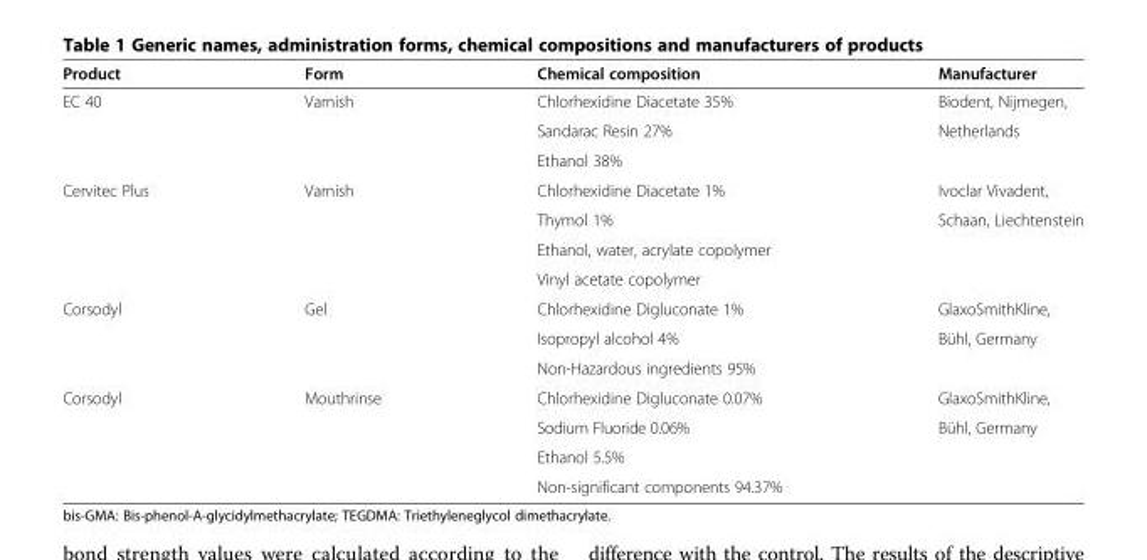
<table><thead><tr><td>Product</td><td>Form</td><td>Chemical composition</td><td>Manufacturer</td></tr></thead><tbody><tr><td rowspan="3">EC 40</td><td>Varnish</td><td>Chlorhexidine Diacetate 35%</td><td>Biodent, Nijmegen,</td></tr><tr><td></td><td>Sandarac Resin 27%</td><td>Netherlands</td></tr><tr><td></td><td>Ethanol 38%</td><td></td></tr><tr><td rowspan="4">Cervitec Plus</td><td>Varnish</td><td>Chlorhexidine Diacetate 1%</td><td>Ivoclar Vivadent,</td></tr><tr><td></td><td>Thymol 1%</td><td>Schaan, Liechtenstein</td></tr><tr><td></td><td>Ethanol, water, acrylate copolymer</td><td></td></tr><tr><td></td><td>Vinyl acetate copolymer</td><td></td></tr><tr><td rowspan="3">Corsodyl</td><td>Gel</td><td>Chlorhexidine Digluconate 1%</td><td>GlaxoSmithKline,</td></tr><tr><td></td><td>Isopropyl alcohol 4%</td><td>Bühl, Germany</td></tr><tr><td></td><td>Non-Hazardous ingredients 95%</td><td></td></tr><tr><td rowspan="4">Corsodyl</td><td>Mouthrinse</td><td>Chlorhexidine Digluconate 0.07%</td><td>GlaxoSmithKline,</td></tr><tr><td></td><td>Sodium Fluoride 0.06%</td><td>Bühl, Germany</td></tr><tr><td></td><td>Ethanol 5.5%</td><td></td></tr><tr><td></td><td>Non-significant components 94.37%</td><td></td></tr></tbody></table>